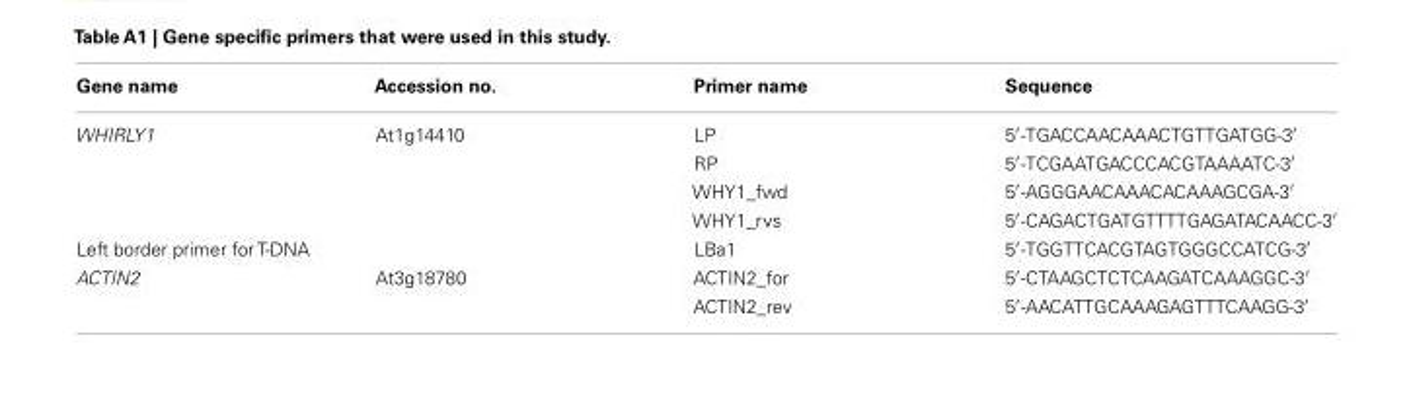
<table><thead><tr><td>Gene name</td><td>Accession no.</td><td>Primer name</td><td>Sequence</td></tr></thead><tbody><tr><td rowspan="4">WHIRLY1</td><td>At1g14410</td><td>LP</td><td>5′-TGACCAACAAACTGTTGATGG-3′</td></tr><tr><td></td><td>RP</td><td>5′-TCGAATGACCCACGTAAAATC-3′</td></tr><tr><td></td><td>WHY1_fwd</td><td>5′-AGGGAACAAACACAAAGCGA-3′</td></tr><tr><td></td><td>WHY1_rvs</td><td>5′-CAGACTGATGTTTTGAGATACAACC-3′</td></tr><tr><td colspan="2">Left border primer for T-DNA</td><td>LBa1</td><td>5′-TGGTTCACGTAGTGGGCCATCG-3′</td></tr><tr><td rowspan="2">ACTIN2</td><td>At3g18780</td><td>ACTIN2_for</td><td>5′-CTAAGCTCTCAAGATCAAAGGC-3′</td></tr><tr><td></td><td>ACTIN2_rev</td><td>5′-AACATTGCAAAGAGTTTCAAGG-3′</td></tr></tbody></table>